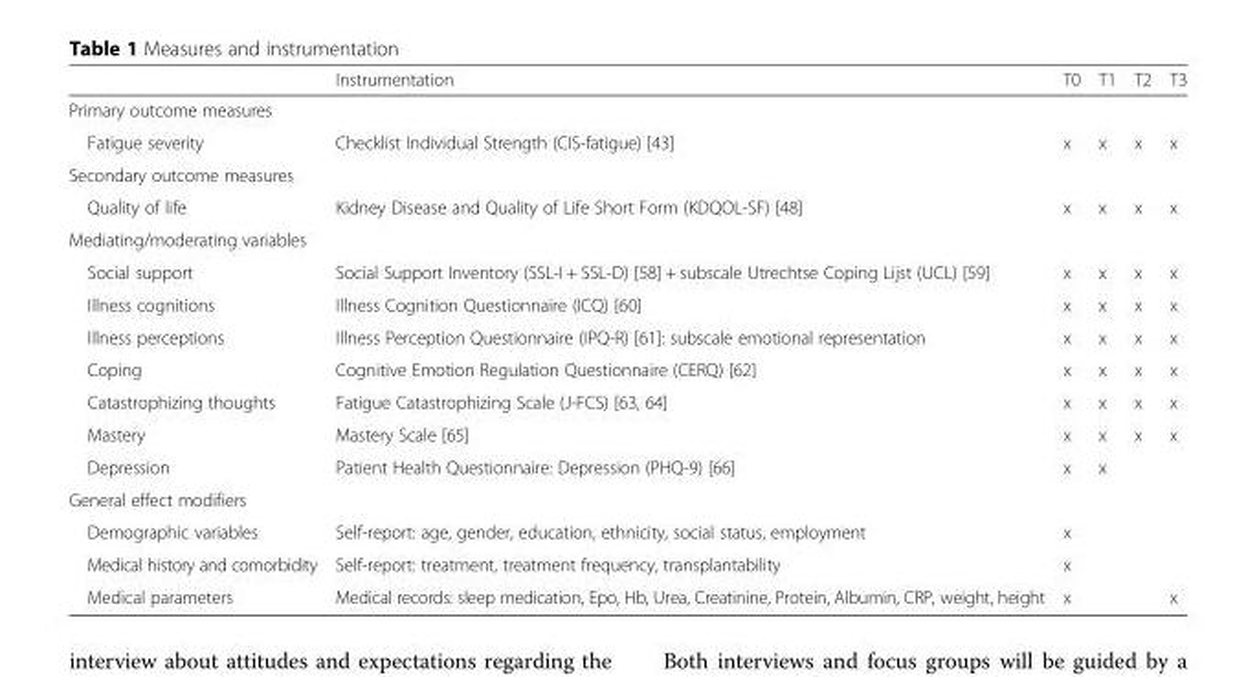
<table><thead><tr><td></td><td>Instrumentation</td><td>T0</td><td>T1</td><td>T2</td><td>T3</td></tr></thead><tbody><tr><td colspan="6">Primary outcome measures</td></tr><tr><td>Fatigue severity</td><td>Checklist Individual Strength (CIS-fatigue) [43]</td><td>x</td><td>x</td><td>x</td><td>x</td></tr><tr><td colspan="6">Secondary outcome measures</td></tr><tr><td>Quality of life</td><td>Kidney Disease and Quality of Life Short Form (KDQOL-SF) [48]</td><td>x</td><td>x</td><td>x</td><td>x</td></tr><tr><td colspan="6">Mediating/moderating variables</td></tr><tr><td>Social support</td><td>Social Support Inventory (SSL-I + SSL-D) [58] + subscale Utrechtse Coping Lijst (UCL) [59]</td><td>x</td><td>x</td><td>x</td><td>x</td></tr><tr><td>Illness cognitions</td><td>Illness Cognition Questionnaire (ICQ) [60]</td><td>x</td><td>x</td><td>x</td><td>x</td></tr><tr><td>Illness perceptions</td><td>Illness Perception Questionnaire (IPQ-R) [61]: subscale emotional representation</td><td>x</td><td>x</td><td>x</td><td>x</td></tr><tr><td>Coping</td><td>Cognitive Emotion Regulation Questionnaire (CERQ) [62]</td><td>x</td><td>x</td><td>x</td><td>x</td></tr><tr><td>Catastrophizing thoughts</td><td>Fatigue Catastrophizing Scale (J-FCS) [63, 64]</td><td>x</td><td>x</td><td>x</td><td>x</td></tr><tr><td>Mastery</td><td>Mastery Scale [65]</td><td>x</td><td>x</td><td>x</td><td>x</td></tr><tr><td>Depression</td><td>Patient Health Questionnaire: Depression (PHQ-9) [66]</td><td>x</td><td>x</td><td></td><td></td></tr><tr><td colspan="6">General effect modifiers</td></tr><tr><td>Demographic variables</td><td>Self-report: age, gender, education, ethnicity, social status, employment</td><td>x</td><td></td><td></td><td></td></tr><tr><td>Medical history and comorbidity</td><td>Self-report: treatment, treatment frequency, transplantability</td><td>x</td><td></td><td></td><td></td></tr><tr><td>Medical parameters</td><td>Medical records: sleep medication, Epo, Hb, Urea, Creatinine, Protein, Albumin, CRP, weight, height</td><td>x</td><td></td><td></td><td>x</td></tr></tbody></table>